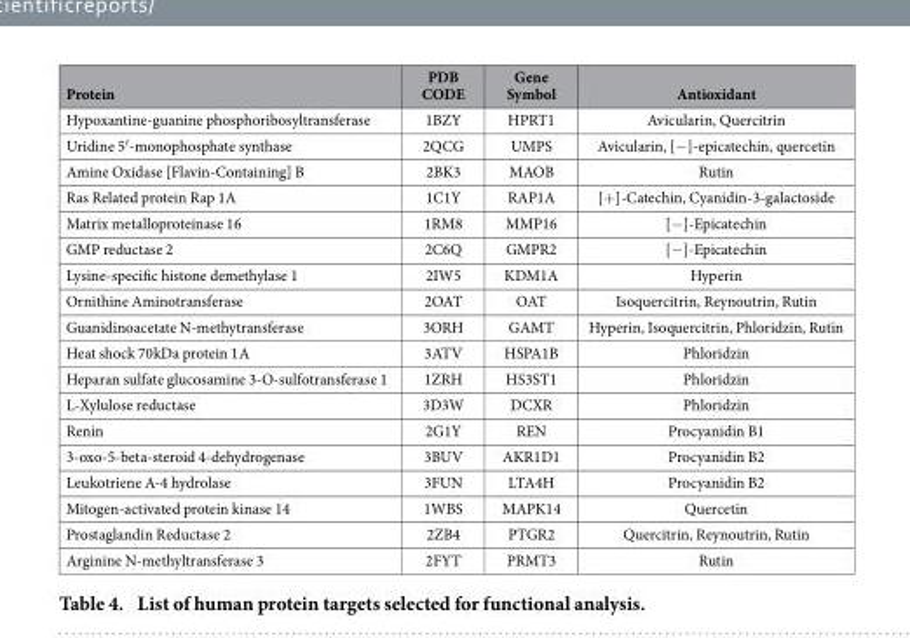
<table><thead><tr><td>Protein</td><td>PDB CODE</td><td>Gene Symbol</td><td>Antioxidant</td></tr></thead><tbody><tr><td>Hypoxantine-guanine phosphoribosyltransferase</td><td>1BZY</td><td>HPRT1</td><td>Avicularin, Quercitrin</td></tr><tr><td>Uridine 5′ -monophosphate synthase</td><td>2QCG</td><td>UMPS</td><td>Avicularin, [− ]-epicatechin, quercetin</td></tr><tr><td>Amine Oxidase [Flavin-Containing] B</td><td>2BK3</td><td>MAOB</td><td>Rutin</td></tr><tr><td>Ras Related protein Rap 1A</td><td>1C1Y</td><td>RAP1A</td><td>[+ ]-Catechin, Cyanidin-3-galactoside</td></tr><tr><td>Matrix metalloproteinase 16</td><td>1RM8</td><td>MMP16</td><td>[− ]-Epicatechin</td></tr><tr><td>GMP reductase 2</td><td>2C6Q</td><td>GMPR2</td><td>[− ]-Epicatechin</td></tr><tr><td>Lysine-specific histone demethylase 1</td><td>2IW5</td><td>KDM1A</td><td>Hyperin</td></tr><tr><td>Ornithine Aminotransferase</td><td>2OAT</td><td>OAT</td><td>Isoquercitrin, Reynoutrin, Rutin</td></tr><tr><td>Guanidinoacetate N-methytransferase</td><td>3ORH</td><td>GAMT</td><td>Hyperin, Isoquercitrin, Phloridzin, Rutin</td></tr><tr><td>Heat shock 70kDa protein 1A</td><td>3ATV</td><td>HSPA1B</td><td>Phloridzin</td></tr><tr><td>Heparan sulfate glucosamine 3-O-sulfotransferase 1</td><td>1ZRH</td><td>HS3ST1</td><td>Phloridzin</td></tr><tr><td>L-Xylulose reductase</td><td>3D3W</td><td>DCXR</td><td>Phloridzin</td></tr><tr><td>Renin</td><td>2G1Y</td><td>REN</td><td>Procyanidin B1</td></tr><tr><td>3-oxo-5-beta-steroid 4-dehydrogenase</td><td>3BUV</td><td>AKR1D1</td><td>Procyanidin B2</td></tr><tr><td>Leukotriene A-4 hydrolase</td><td>3FUN</td><td>LTA4H</td><td>Procyanidin B2</td></tr><tr><td>Mitogen-activated protein kinase 14</td><td>1WBS</td><td>MAPK14</td><td>Quercetin</td></tr><tr><td>Prostaglandin Reductase 2</td><td>2ZB4</td><td>PTGR2</td><td>Quercitrin, Reynoutrin, Rutin</td></tr><tr><td>Arginine N-methyltransferase 3</td><td>2FYT</td><td>PRMT3</td><td>Rutin</td></tr></tbody></table>